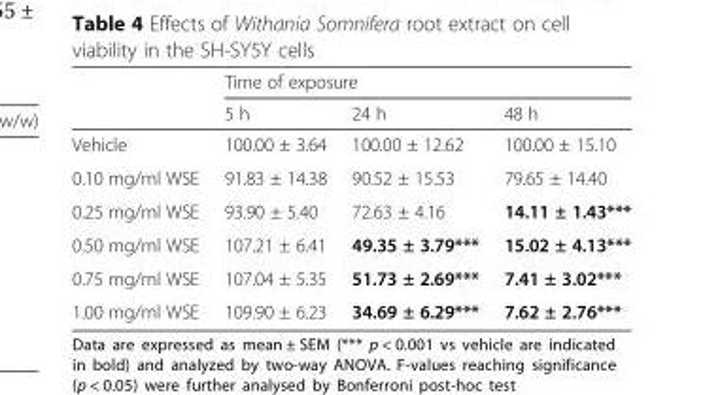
<table><thead><tr><td rowspan="2"></td><td colspan="3">Time of exposure</td></tr><tr><td>5 h</td><td>24 h</td><td>48 h</td></tr></thead><tbody><tr><td>Vehicle</td><td>100.00 ± 3.64</td><td>100.00 ± 12.62</td><td>100.00 ± 15.10</td></tr><tr><td>0.10 mg/ml WSE</td><td>91.83 ± 14.38</td><td>90.52 ± 15.53</td><td>79.65 ± 14.40</td></tr><tr><td>0.25 mg/ml WSE</td><td>93.90 ± 5.40</td><td>72.63 ± 4.16</td><td>14.11 ± 1.43***</td></tr><tr><td>0.50 mg/ml WSE</td><td>107.21 ± 6.41</td><td>49.35 ± 3.79***</td><td>15.02 ± 4.13***</td></tr><tr><td>0.75 mg/ml WSE</td><td>107.04 ± 5.35</td><td>51.73 ± 2.69***</td><td>7.41 ± 3.02***</td></tr><tr><td>1.00 mg/ml WSE</td><td>109.90 ± 6.23</td><td>34.69 ± 6.29***</td><td>7.62 ± 2.76***</td></tr></tbody></table>